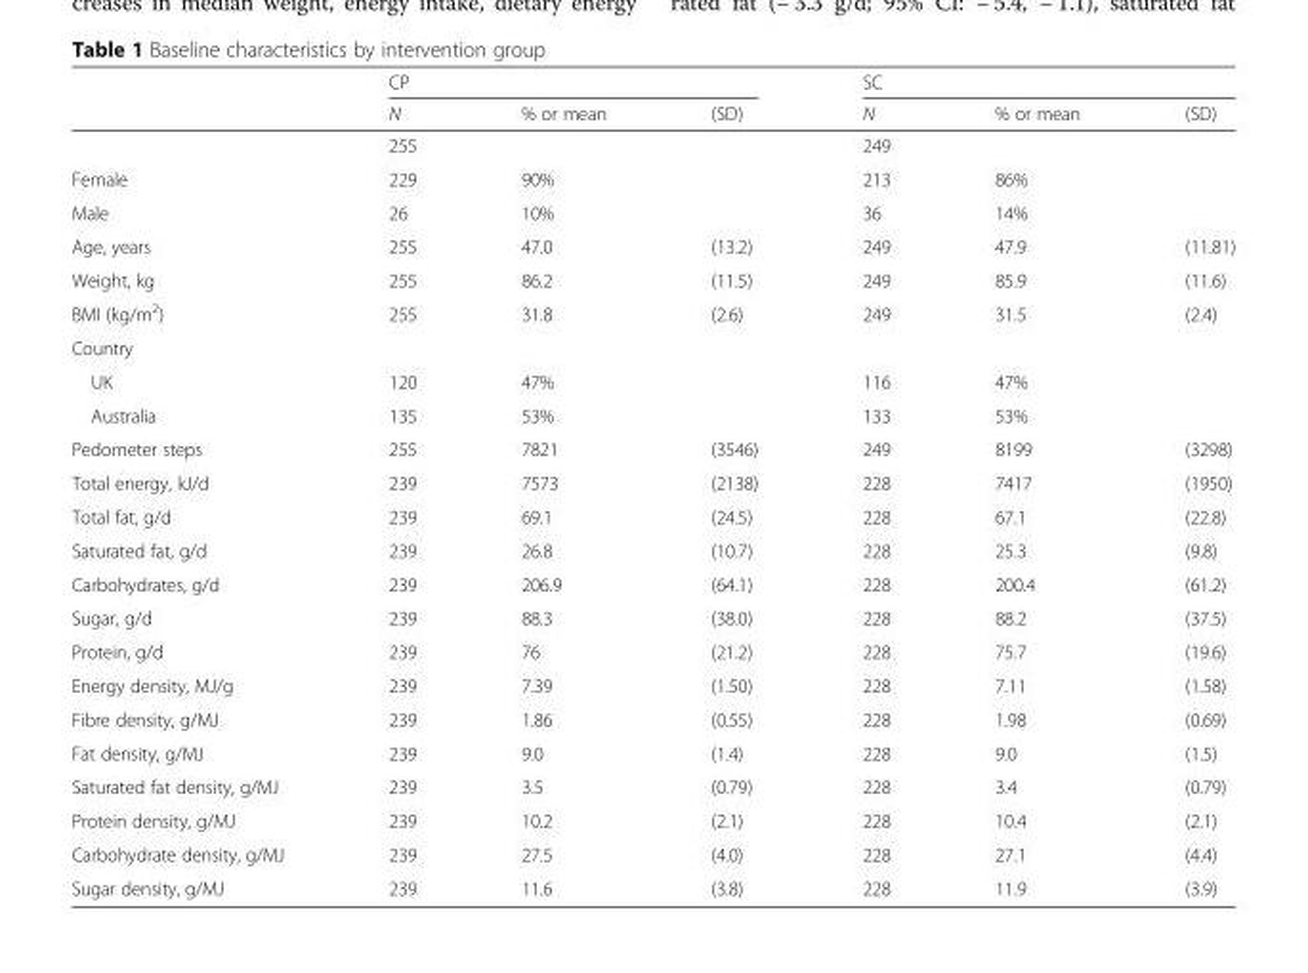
<table><thead><tr><td rowspan="2"></td><td colspan="3">CP</td><td colspan="3">SC</td></tr><tr><td>N</td><td>% or mean</td><td>(SD)</td><td>N</td><td>% or mean</td><td>(SD)</td></tr></thead><tbody><tr><td></td><td>255</td><td></td><td></td><td>249</td><td></td><td></td></tr><tr><td>Female</td><td>229</td><td>90%</td><td></td><td>213</td><td>86%</td><td></td></tr><tr><td>Male</td><td>26</td><td>10%</td><td></td><td>36</td><td>14%</td><td></td></tr><tr><td>Age, years</td><td>255</td><td>47.0</td><td>(13.2)</td><td>249</td><td>47.9</td><td>(11.81)</td></tr><tr><td>Weight, kg</td><td>255</td><td>86.2</td><td>(11.5)</td><td>249</td><td>85.9</td><td>(11.6)</td></tr><tr><td>BMI (kg/m<sup>2</sup>)</td><td>255</td><td>31.8</td><td>(2.6)</td><td>249</td><td>31.5</td><td>(2.4)</td></tr><tr><td colspan="7">Country</td></tr><tr><td>UK</td><td>120</td><td>47%</td><td></td><td>116</td><td>47%</td><td></td></tr><tr><td>Australia</td><td>135</td><td>53%</td><td></td><td>133</td><td>53%</td><td></td></tr><tr><td>Pedometer steps</td><td>255</td><td>7821</td><td>(3546)</td><td>249</td><td>8199</td><td>(3298)</td></tr><tr><td>Total energy, kJ/d</td><td>239</td><td>7573</td><td>(2138)</td><td>228</td><td>7417</td><td>(1950)</td></tr><tr><td>Total fat, g/d</td><td>239</td><td>69.1</td><td>(24.5)</td><td>228</td><td>67.1</td><td>(22.8)</td></tr><tr><td>Saturated fat, g/d</td><td>239</td><td>26.8</td><td>(10.7)</td><td>228</td><td>25.3</td><td>(9.8)</td></tr><tr><td>Carbohydrates, g/d</td><td>239</td><td>206.9</td><td>(64.1)</td><td>228</td><td>200.4</td><td>(61.2)</td></tr><tr><td>Sugar, g/d</td><td>239</td><td>88.3</td><td>(38.0)</td><td>228</td><td>88.2</td><td>(37.5)</td></tr><tr><td>Protein, g/d</td><td>239</td><td>76</td><td>(21.2)</td><td>228</td><td>75.7</td><td>(19.6)</td></tr><tr><td>Energy density, MJ/g</td><td>239</td><td>7.39</td><td>(1.50)</td><td>228</td><td>7.11</td><td>(1.58)</td></tr><tr><td>Fibre density, g/MJ</td><td>239</td><td>1.86</td><td>(0.55)</td><td>228</td><td>1.98</td><td>(0.69)</td></tr><tr><td>Fat density, g/MJ</td><td>239</td><td>9.0</td><td>(1.4)</td><td>228</td><td>9.0</td><td>(1.5)</td></tr><tr><td>Saturated fat density, g/MJ</td><td>239</td><td>3.5</td><td>(0.79)</td><td>228</td><td>3.4</td><td>(0.79)</td></tr><tr><td>Protein density, g/MJ</td><td>239</td><td>10.2</td><td>(2.1)</td><td>228</td><td>10.4</td><td>(2.1)</td></tr><tr><td>Carbohydrate density, g/MJ</td><td>239</td><td>27.5</td><td>(4.0)</td><td>228</td><td>27.1</td><td>(4.4)</td></tr><tr><td>Sugar density, g/MJ</td><td>239</td><td>11.6</td><td>(3.8)</td><td>228</td><td>11.9</td><td>(3.9)</td></tr></tbody></table>